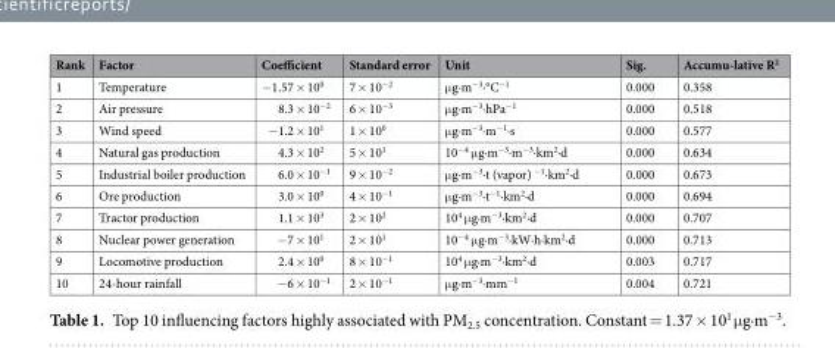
<table><thead><tr><td>Rank</td><td>Factor</td><td>Coefficient</td><td>Standard error</td><td>Unit</td><td>Sig.</td><td>Accumu-lative R<sup>2</sup></td></tr></thead><tbody><tr><td>1</td><td>Temperature</td><td>−1.57 × 10<sup>0</sup></td><td>7 × 10<sup>−2</sup></td><td>μg·m<sup>−3</sup>·°C<sup>−1</sup></td><td>0.000</td><td>0.358</td></tr><tr><td>2</td><td>Air pressure</td><td>8.3 × 10<sup>−2</sup></td><td>6 × 10<sup>−3</sup></td><td>μg·m<sup>−3</sup>·hPa<sup>−1</sup></td><td>0.000</td><td>0.518</td></tr><tr><td>3</td><td>Wind speed</td><td>−1.2 × 10<sup>1</sup></td><td>1 × 10<sup>0</sup></td><td>μg·m<sup>−3</sup>·m<sup>−1</sup>·s</td><td>0.000</td><td>0.577</td></tr><tr><td>4</td><td>Natural gas production</td><td>4.3 × 10<sup>2</sup></td><td>5 × 10<sup>1</sup></td><td>10<sup>−4</sup> μg·m<sup>−3</sup>·m<sup>−3</sup>·km<sup>2</sup>·d</td><td>0.000</td><td>0.634</td></tr><tr><td>5</td><td>Industrial boiler production</td><td>6.0 × 10<sup>−1</sup></td><td>9 × 10<sup>−2</sup></td><td>μg·m<sup>−3</sup>·t (vapor) <sup>−1</sup>·km<sup>2</sup>·d</td><td>0.000</td><td>0.673</td></tr><tr><td>6</td><td>Ore production</td><td>3.0 × 10<sup>0</sup></td><td>4 × 10<sup>−1</sup></td><td>μg·m<sup>−3</sup>·t<sup>−1</sup>·km<sup>2</sup>·d</td><td>0.000</td><td>0.694</td></tr><tr><td>7</td><td>Tractor production</td><td>1.1 × 10<sup>3</sup></td><td>2 × 10<sup>2</sup></td><td>10<sup>4</sup> μg·m<sup>−3</sup>·km<sup>2</sup>·d</td><td>0.000</td><td>0.707</td></tr><tr><td>8</td><td>Nuclear power generation</td><td>−7 × 10<sup>1</sup></td><td>2 × 10<sup>1</sup></td><td>10<sup>−4</sup> μg·m<sup>−3</sup>·kW·h·km<sup>2</sup>·d</td><td>0.000</td><td>0.713</td></tr><tr><td>9</td><td>Locomotive production</td><td>2.4 × 10<sup>0</sup></td><td>8 × 10<sup>−1</sup></td><td>10<sup>4</sup> μg·m<sup>−3</sup>·km<sup>2</sup>·d</td><td>0.003</td><td>0.717</td></tr><tr><td>10</td><td>24-hour rainfall</td><td>−6 × 10<sup>−1</sup></td><td>2 × 10<sup>−1</sup></td><td>μg·m<sup>−3</sup>·mm<sup>−1</sup></td><td>0.004</td><td>0.721</td></tr></tbody></table>